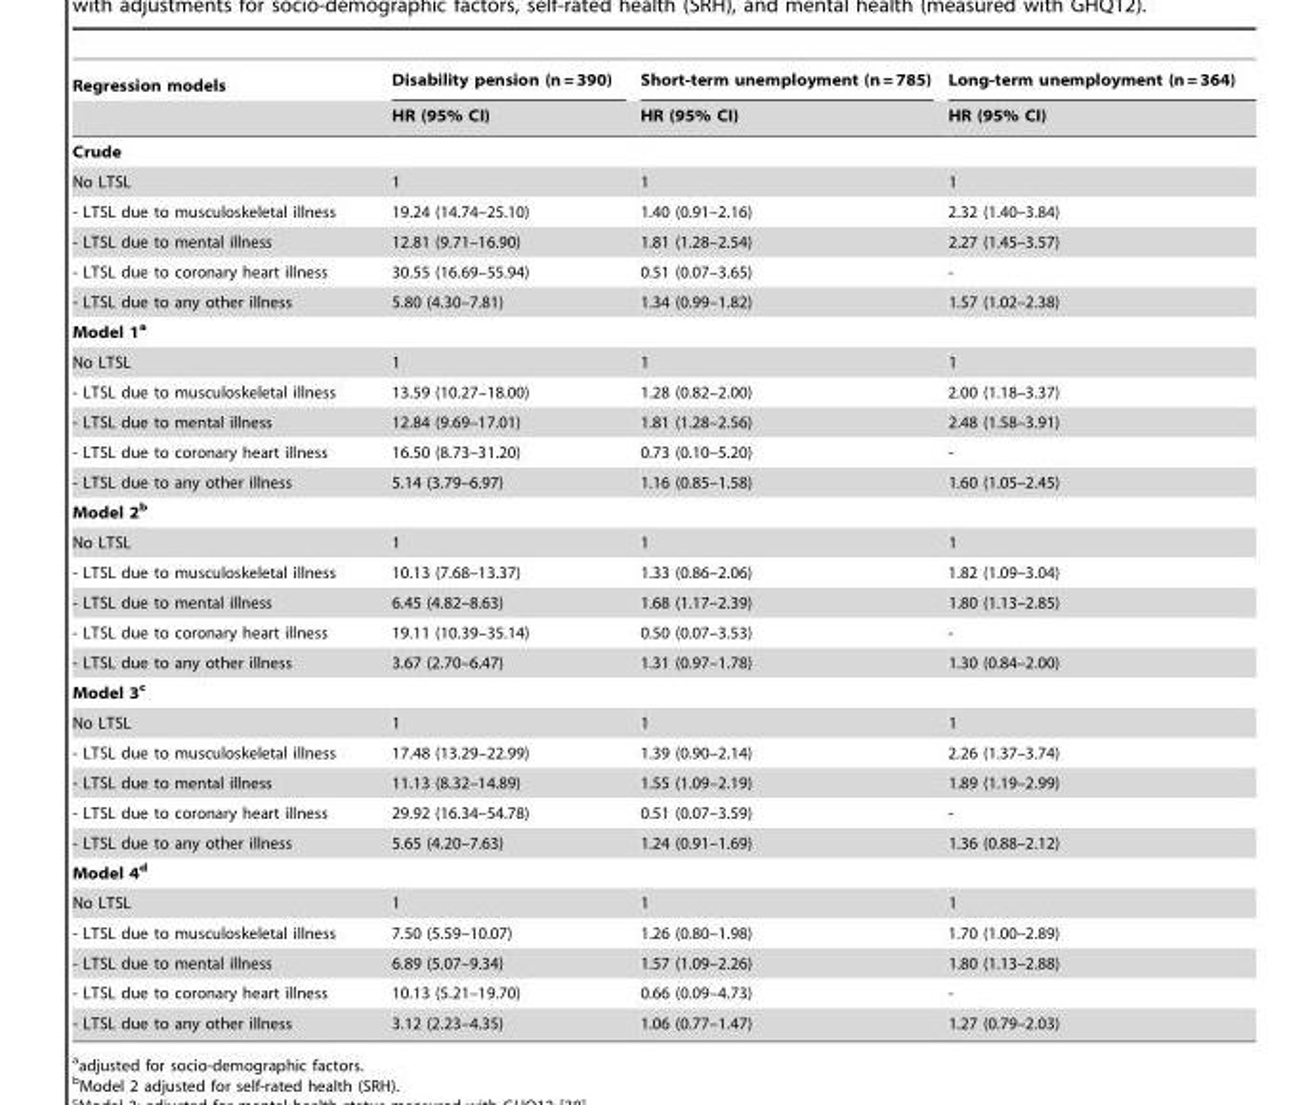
<table><thead><tr><td rowspan="2">Regression models</td><td rowspan="2">Disability pension (n = 390) HR (95% CI)</td><td rowspan="2">Short-term unemployment (n = 785) HR (95% CI)</td><td rowspan="2">Long-term unemployment (n = 364) HR (95% CI)</td></tr><tr></tr></thead><tbody><tr><td colspan="4">Crude</td></tr><tr><td>No LTSL</td><td>1</td><td>1</td><td>1</td></tr><tr><td>- LTSL due to musculoskeletal illness</td><td>19.24 (14.74–25.10)</td><td>1.40 (0.91–2.16)</td><td>2.32 (1.40–3.84)</td></tr><tr><td>- LTSL due to mental illness</td><td>12.81 (9.71–16.90)</td><td>1.81 (1.28–2.54)</td><td>2.27 (1.45–3.57)</td></tr><tr><td>- LTSL due to coronary heart illness</td><td>30.55 (16.69–55.94)</td><td>0.51 (0.07–3.65)</td><td>-</td></tr><tr><td>- LTSL due to any other illness</td><td>5.80 (4.30–7.81)</td><td>1.34 (0.99–1.82)</td><td>1.57 (1.02–2.38)</td></tr><tr><td colspan="4">Model 1a</td></tr><tr><td>No LTSL</td><td>1</td><td>1</td><td>1</td></tr><tr><td>- LTSL due to musculoskeletal illness</td><td>13.59 (10.27–18.00)</td><td>1.28 (0.82–2.00)</td><td>2.00 (1.18–3.37)</td></tr><tr><td>- LTSL due to mental illness</td><td>12.84 (9.69–17.01)</td><td>1.81 (1.28–2.56)</td><td>2.48 (1.58–3.91)</td></tr><tr><td>- LTSL due to coronary heart illness</td><td>16.50 (8.73–31.20)</td><td>0.73 (0.10–5.20)</td><td>-</td></tr><tr><td>- LTSL due to any other illness</td><td>5.14 (3.79–6.97)</td><td>1.16 (0.85–1.58)</td><td>1.60 (1.05–2.45)</td></tr><tr><td colspan="4">Model 2b</td></tr><tr><td>No LTSL</td><td>1</td><td>1</td><td>1</td></tr><tr><td>- LTSL due to musculoskeletal illness</td><td>10.13 (7.68–13.37)</td><td>1.33 (0.86–2.06)</td><td>1.82 (1.09–3.04)</td></tr><tr><td>- LTSL due to mental illness</td><td>6.45 (4.82–8.63)</td><td>1.68 (1.17–2.39)</td><td>1.80 (1.13–2.85)</td></tr><tr><td>- LTSL due to coronary heart illness</td><td>19.11 (10.39–35.14)</td><td>0.50 (0.07–3.53)</td><td>-</td></tr><tr><td>- LTSL due to any other illness</td><td>3.67 (2.70–6.47)</td><td>1.31 (0.97–1.78)</td><td>1.30 (0.84–2.00)</td></tr><tr><td colspan="4">Model 3c</td></tr><tr><td>No LTSL</td><td>1</td><td>1</td><td>1</td></tr><tr><td>- LTSL due to musculoskeletal illness</td><td>17.48 (13.29–22.99)</td><td>1.39 (0.90–2.14)</td><td>2.26 (1.37–3.74)</td></tr><tr><td>- LTSL due to mental illness</td><td>11.13 (8.32–14.89)</td><td>1.55 (1.09–2.19)</td><td>1.89 (1.19–2.99)</td></tr><tr><td>- LTSL due to coronary heart illness</td><td>29.92 (16.34–54.78)</td><td>0.51 (0.07–3.59)</td><td>-</td></tr><tr><td>- LTSL due to any other illness</td><td>5.65 (4.20–7.63)</td><td>1.24 (0.91–1.69)</td><td>1.36 (0.88–2.12)</td></tr><tr><td colspan="4">Model 4d</td></tr><tr><td>No LTSL</td><td>1</td><td>1</td><td>1</td></tr><tr><td>- LTSL due to musculoskeletal illness</td><td>7.50 (5.59–10.07)</td><td>1.26 (0.80–1.98)</td><td>1.70 (1.00–2.89)</td></tr><tr><td>- LTSL due to mental illness</td><td>6.89 (5.07–9.34)</td><td>1.57 (1.09–2.26)</td><td>1.80 (1.13–2.88)</td></tr><tr><td>- LTSL due to coronary heart illness</td><td>10.13 (5.21–19.70)</td><td>0.66 (0.09–4.73)</td><td>-</td></tr><tr><td>- LTSL due to any other illness</td><td>3.12 (2.23–4.35)</td><td>1.06 (0.77–1.47)</td><td>1.27 (0.79–2.03)</td></tr></tbody></table>